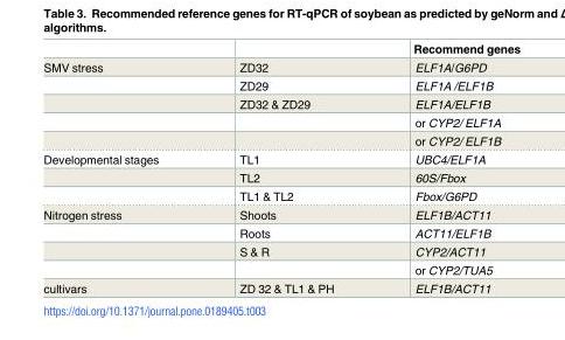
<table><thead><tr><td></td><td></td><td>Recommend genes</td></tr></thead><tbody><tr><td rowspan="5">SMV stress</td><td>ZD32</td><td>ELF1A/G6PD</td></tr><tr><td>ZD29</td><td>ELF1A /ELF1B</td></tr><tr><td>ZD32 &amp; ZD29</td><td>ELF1A/ELF1B</td></tr><tr><td></td><td>or CYP2/ ELF1A</td></tr><tr><td></td><td>or CYP2/ ELF1B</td></tr><tr><td rowspan="3">Developmental stages</td><td>TL1</td><td>UBC4/ELF1A</td></tr><tr><td>TL2</td><td>60S/Fbox</td></tr><tr><td>TL1 &amp; TL2</td><td>Fbox/G6PD</td></tr><tr><td rowspan="4">Nitrogen stress</td><td>Shoots</td><td>ELF1B/ACT11</td></tr><tr><td>Roots</td><td>ACT11/ELF1B</td></tr><tr><td>S &amp; R</td><td>CYP2/ACT11</td></tr><tr><td></td><td>or CYP2/TUA5</td></tr><tr><td>cultivars</td><td>ZD 32 &amp; TL1 &amp; PH</td><td>ELF1B/ACT11</td></tr></tbody></table>